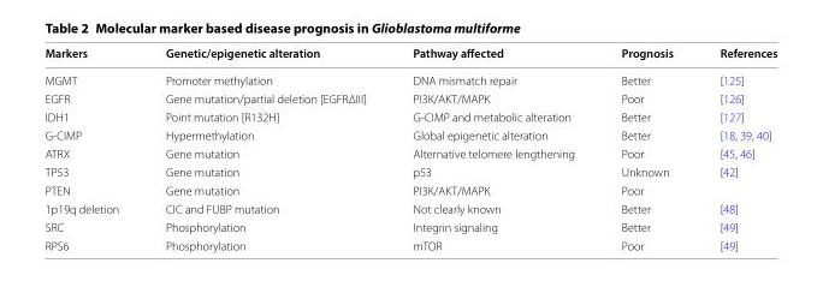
<table><thead><tr><td>Markers</td><td>Genetic/epigenetic alteration</td><td>Pathway affected</td><td>Prognosis</td><td>References</td></tr></thead><tbody><tr><td>MGMT</td><td>Promoter methylation</td><td>DNA mismatch repair</td><td>Better</td><td>[125]</td></tr><tr><td>EGFR</td><td>Gene mutation/partial deletion [EGFRΔIII]</td><td>PI3K/AKT/MAPK</td><td>Poor</td><td>[126]</td></tr><tr><td>IDH1</td><td>Point mutation [R132H]</td><td>G-CIMP and metabolic alteration</td><td>Better</td><td>[127]</td></tr><tr><td>G-CIMP</td><td>Hypermethylation</td><td>Global epigenetic alteration</td><td>Better</td><td>[18, 39, 40]</td></tr><tr><td>ATRX</td><td>Gene mutation</td><td>Alternative telomere lengthening</td><td>Poor</td><td>[45, 46]</td></tr><tr><td>TP53</td><td>Gene mutation</td><td>p53</td><td>Unknown</td><td>[42]</td></tr><tr><td>PTEN</td><td>Gene mutation</td><td>PI3K/AKT/MAPK</td><td>Poor</td><td></td></tr><tr><td>1p19q deletion</td><td>CIC and FUBP mutation</td><td>Not clearly known</td><td>Better</td><td>[48]</td></tr><tr><td>SRC</td><td>Phosphorylation</td><td>Integrin signaling</td><td>Better</td><td>[49]</td></tr><tr><td>RPS6</td><td>Phosphorylation</td><td>mTOR</td><td>Poor</td><td>[49]</td></tr></tbody></table>